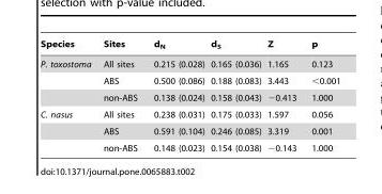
<table><thead><tr><td>Species</td><td>Sites</td><td>d<sub>N</sub></td><td>d<sub>S</sub></td><td>Z</td><td>p</td></tr></thead><tbody><tr><td rowspan="3">P. toxostoma</td><td>All sites</td><td>0.215 (0.028)</td><td>0.165 (0.036)</td><td>1.165</td><td>0.123</td></tr><tr><td>ABS</td><td>0.500 (0.086)</td><td>0.188 (0.083)</td><td>3.443</td><td>&lt;0.001</td></tr><tr><td>non-ABS</td><td>0.138 (0.024)</td><td>0.158 (0.043)</td><td>−0.413</td><td>1.000</td></tr><tr><td rowspan="3">C. nasus</td><td>All sites</td><td>0.238 (0.031)</td><td>0.175 (0.033)</td><td>1.597</td><td>0.056</td></tr><tr><td>ABS</td><td>0.591 (0.104)</td><td>0.246 (0.085)</td><td>3.319</td><td>0.001</td></tr><tr><td>non-ABS</td><td>0.148 (0.023)</td><td>0.154 (0.038)</td><td>−0.143</td><td>1.000</td></tr></tbody></table>